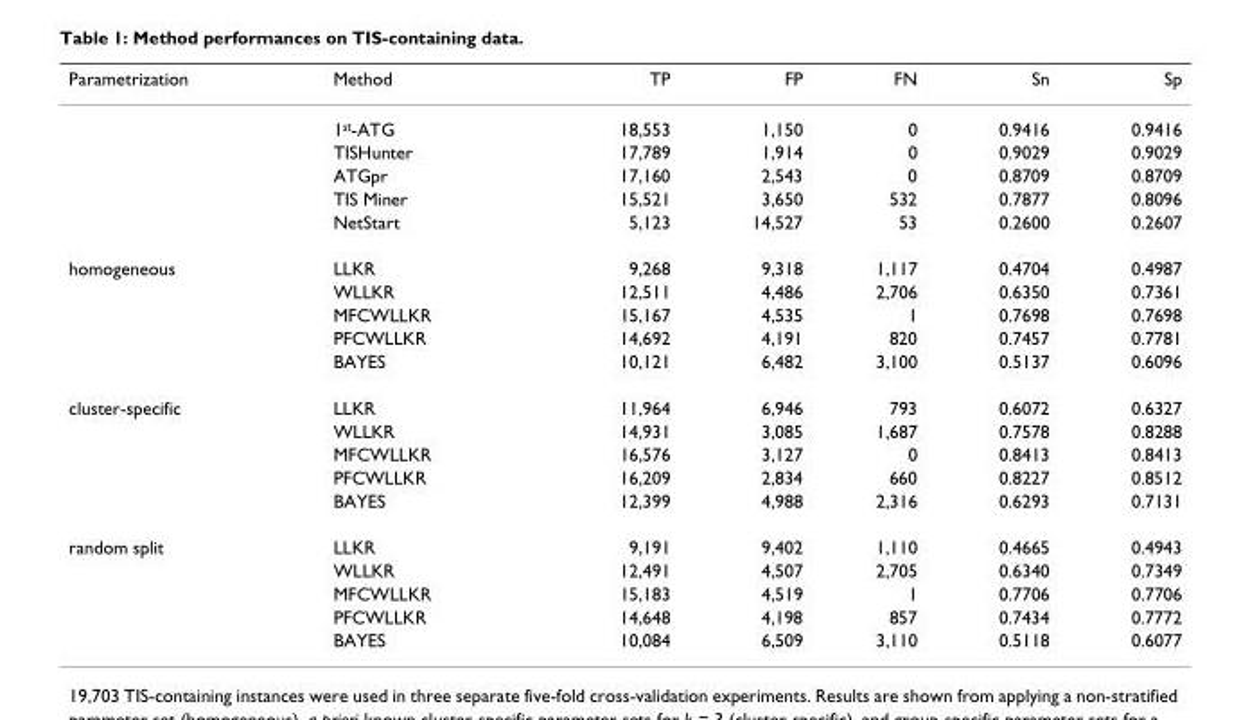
<table><thead><tr><td>Parametrization</td><td>Method</td><td>TP</td><td>FP</td><td>FN</td><td>Sn</td><td>Sp</td></tr></thead><tbody><tr><td></td><td>1<sup>st</sup>-ATG</td><td>18,553</td><td>1,150</td><td>0</td><td>0.9416</td><td>0.9416</td></tr><tr><td></td><td>TISHunter</td><td>17,789</td><td>1,914</td><td>0</td><td>0.9029</td><td>0.9029</td></tr><tr><td></td><td>ATGpr</td><td>17,160</td><td>2,543</td><td>0</td><td>0.8709</td><td>0.8709</td></tr><tr><td></td><td>TIS Miner</td><td>15,521</td><td>3,650</td><td>532</td><td>0.7877</td><td>0.8096</td></tr><tr><td></td><td>NetStart</td><td>5,123</td><td>14,527</td><td>53</td><td>0.2600</td><td>0.2607</td></tr><tr><td rowspan="5">homogeneous</td><td>LLKR</td><td>9,268</td><td>9,318</td><td>1,117</td><td>0.4704</td><td>0.4987</td></tr><tr><td>WLLKR</td><td>12,511</td><td>4,486</td><td>2,706</td><td>0.6350</td><td>0.7361</td></tr><tr><td>MFCWLLKR</td><td>15,167</td><td>4,535</td><td>1</td><td>0.7698</td><td>0.7698</td></tr><tr><td>PFCWLLKR</td><td>14,692</td><td>4,191</td><td>820</td><td>0.7457</td><td>0.7781</td></tr><tr><td>BAYES</td><td>10,121</td><td>6,482</td><td>3,100</td><td>0.5137</td><td>0.6096</td></tr><tr><td rowspan="5">cluster-specific</td><td>LLKR</td><td>11,964</td><td>6,946</td><td>793</td><td>0.6072</td><td>0.6327</td></tr><tr><td>WLLKR</td><td>14,931</td><td>3,085</td><td>1,687</td><td>0.7578</td><td>0.8288</td></tr><tr><td>MFCWLLKR</td><td>16,576</td><td>3,127</td><td>0</td><td>0.8413</td><td>0.8413</td></tr><tr><td>PFCWLLKR</td><td>16,209</td><td>2,834</td><td>660</td><td>0.8227</td><td>0.8512</td></tr><tr><td>BAYES</td><td>12,399</td><td>4,988</td><td>2,316</td><td>0.6293</td><td>0.7131</td></tr><tr><td rowspan="5">random split</td><td>LLKR</td><td>9,191</td><td>9,402</td><td>1,110</td><td>0.4665</td><td>0.4943</td></tr><tr><td>WLLKR</td><td>12,491</td><td>4,507</td><td>2,705</td><td>0.6340</td><td>0.7349</td></tr><tr><td>MFCWLLKR</td><td>15,183</td><td>4,519</td><td>1</td><td>0.7706</td><td>0.7706</td></tr><tr><td>PFCWLLKR</td><td>14,648</td><td>4,198</td><td>857</td><td>0.7434</td><td>0.7772</td></tr><tr><td>BAYES</td><td>10,084</td><td>6,509</td><td>3,110</td><td>0.5118</td><td>0.6077</td></tr></tbody></table>